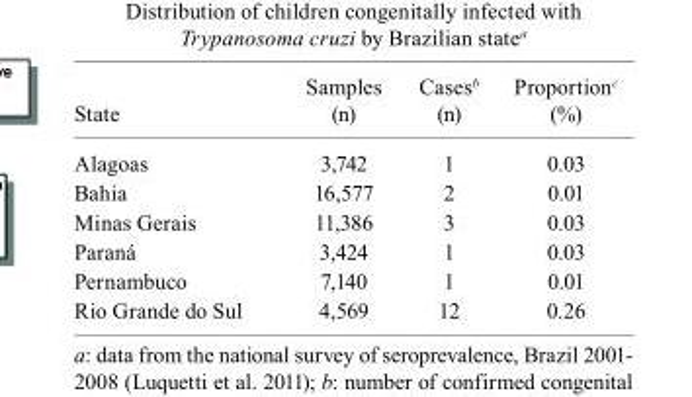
<table><thead><tr><td>State</td><td>Samples (n)</td><td>Cases<sup>b</sup> (n)</td><td>Proportion<sup>c</sup> (%)</td></tr></thead><tbody><tr><td>Alagoas</td><td>3,742</td><td>1</td><td>0.03</td></tr><tr><td>Bahia</td><td>16,577</td><td>2</td><td>0.01</td></tr><tr><td>Minas Gerais</td><td>11,386</td><td>3</td><td>0.03</td></tr><tr><td>Paraná</td><td>3,424</td><td>1</td><td>0.03</td></tr><tr><td>Pernambuco</td><td>7,140</td><td>1</td><td>0.01</td></tr><tr><td>Rio Grande do Sul</td><td>4,569</td><td>12</td><td>0.26</td></tr></tbody></table>